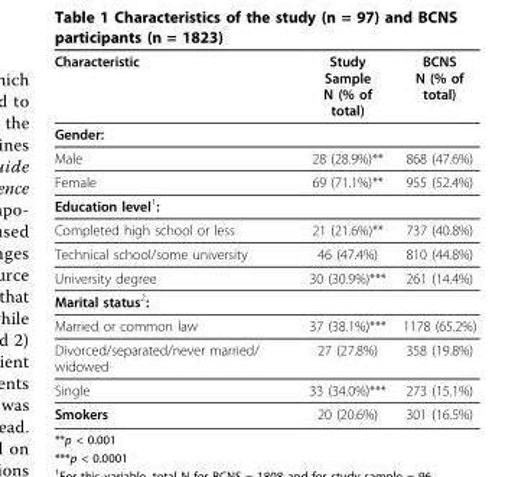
<table><thead><tr><td>Characteristic</td><td>Study Sample N (% of total)</td><td>BCNS N (% of total)</td></tr></thead><tbody><tr><td colspan="3">Gender:</td></tr><tr><td>Male</td><td>28 (28.9%)**</td><td>868 (47.6%)</td></tr><tr><td>Female</td><td>69 (71.1%)**</td><td>955 (52.4%)</td></tr><tr><td colspan="3">Education level<sup>1</sup>:</td></tr><tr><td>Completed high school or less</td><td>21 (21.6%)**</td><td>737 (40.8%)</td></tr><tr><td>Technical school/some university</td><td>46 (47.4%)</td><td>810 (44.8%)</td></tr><tr><td>University degree</td><td>30 (30.9%)***</td><td>261 (14.4%)</td></tr><tr><td colspan="3">Marital status<sup>2</sup>:</td></tr><tr><td>Married or common law</td><td>37 (38.1%)***</td><td>1178 (65.2%)</td></tr><tr><td>Divorced/separated/never married/ widowed</td><td>27 (27.8%)</td><td>358 (19.8%)</td></tr><tr><td>Single</td><td>33 (34.0%)***</td><td>273 (15.1%)</td></tr><tr><td>Smokers</td><td>20 (20.6%)</td><td>301 (16.5%)</td></tr></tbody></table>